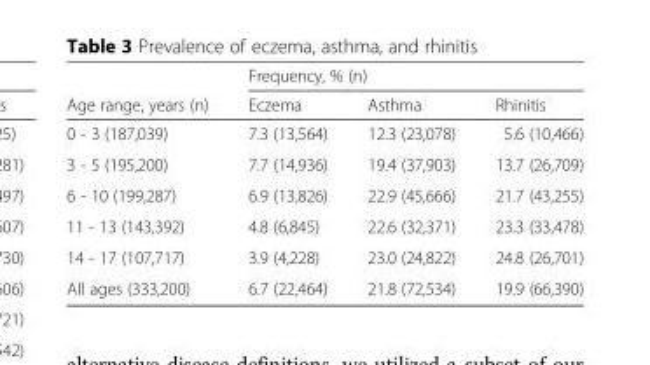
<table><thead><tr><td rowspan="2">Age range, years (n)</td><td colspan="3">Frequency, % (n)</td></tr><tr><td>Eczema</td><td>Asthma</td><td>Rhinitis</td></tr></thead><tbody><tr><td>0 - 3 (187,039)</td><td>7.3 (13,564)</td><td>12.3 (23,078)</td><td>5.6 (10,466)</td></tr><tr><td>3 - 5 (195,200)</td><td>7.7 (14,936)</td><td>19.4 (37,903)</td><td>13.7 (26,709)</td></tr><tr><td>6 - 10 (199,287)</td><td>6.9 (13,826)</td><td>22.9 (45,666)</td><td>21.7 (43,255)</td></tr><tr><td>11 - 13 (143,392)</td><td>4.8 (6,845)</td><td>22.6 (32,371)</td><td>23.3 (33,478)</td></tr><tr><td>14 - 17 (107,717)</td><td>3.9 (4,228)</td><td>23.0 (24,822)</td><td>24.8 (26,701)</td></tr><tr><td>All ages (333,200)</td><td>6.7 (22,464)</td><td>21.8 (72,534)</td><td>19.9 (66,390)</td></tr></tbody></table>